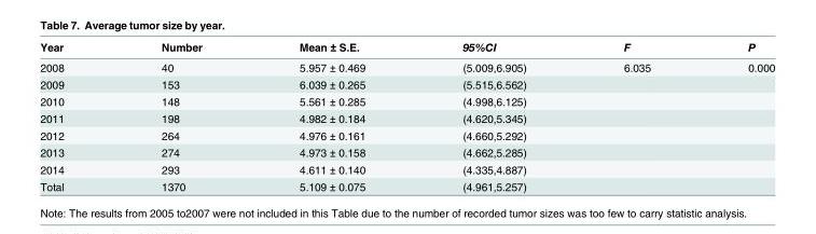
<table><thead><tr><td>Year</td><td>Number</td><td>Mean ± S.E.</td><td>95%CI</td><td>F</td><td>P</td></tr></thead><tbody><tr><td>2008</td><td>40</td><td>5.957 ± 0.469</td><td>(5.009,6.905)</td><td>6.035</td><td>0.000</td></tr><tr><td>2009</td><td>153</td><td>6.039 ± 0.265</td><td>(5.515,6.562)</td><td></td><td></td></tr><tr><td>2010</td><td>148</td><td>5.561 ± 0.285</td><td>(4.998,6.125)</td><td></td><td></td></tr><tr><td>2011</td><td>198</td><td>4.982 ± 0.184</td><td>(4.620,5.345)</td><td></td><td></td></tr><tr><td>2012</td><td>264</td><td>4.976 ± 0.161</td><td>(4.660,5.292)</td><td></td><td></td></tr><tr><td>2013</td><td>274</td><td>4.973 ± 0.158</td><td>(4.662,5.285)</td><td></td><td></td></tr><tr><td>2014</td><td>293</td><td>4.611 ± 0.140</td><td>(4.335,4.887)</td><td></td><td></td></tr><tr><td>Total</td><td>1370</td><td>5.109 ± 0.075</td><td>(4.961,5.257)</td><td></td><td></td></tr></tbody></table>